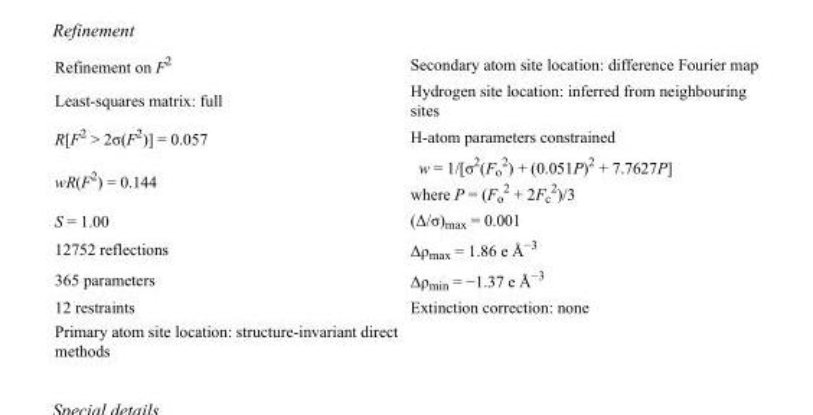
<table><tbody><tr><td>Refinement on F<sup>2</sup></td><td>Secondary atom site location: difference Fourier map</td></tr><tr><td>Least-squares matrix: full</td><td>Hydrogen site location: inferred from neighbouring sites</td></tr><tr><td>R[F<sup>2</sup> &gt; 2σ(F<sup>2</sup>)] = 0.057</td><td>H-atom parameters constrained</td></tr><tr><td>wR(F<sup>2</sup>) = 0.144</td><td>w = 1/[σ<sup>2</sup>(F<sub>o</sub> <sup>2</sup>) + (0.051P)<sup>2</sup> + 7.7627P] where P = (F<sub>o</sub> <sup>2</sup> + 2F<sub>c</sub> <sup>2</sup>)/3</td></tr><tr><td>S = 1.00</td><td>(Δ/σ)<sub>max</sub> = 0.001</td></tr><tr><td>12752 reflections</td><td>Δρ<sub>max</sub> = 1.86 e Å<sup>−3</sup></td></tr><tr><td>365 parameters</td><td>Δρ<sub>min</sub> = −1.37 e Å<sup>−3</sup></td></tr><tr><td>12 restraints</td><td>Extinction correction: none</td></tr><tr><td>Primary atom site location: structure-invariant direct methods</td><td></td></tr></tbody></table>